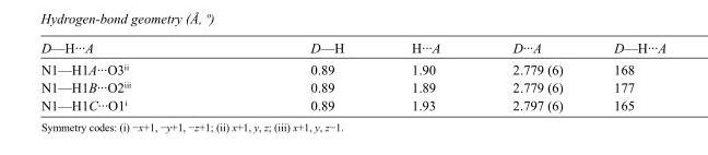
<table><tbody><tr><td>D—H···A</td><td>D—H</td><td>H···A</td><td>D···A</td><td>D—H···A</td></tr><tr><td>N1—H1A···O3<sup>ii</sup></td><td>0.89</td><td>1.90</td><td>2.779 (6)</td><td>168</td></tr><tr><td>N1—H1B···O2<sup>iii</sup></td><td>0.89</td><td>1.89</td><td>2.779 (6)</td><td>177</td></tr><tr><td>N1—H1C···O1<sup>i</sup></td><td>0.89</td><td>1.93</td><td>2.797 (6)</td><td>165</td></tr></tbody></table>